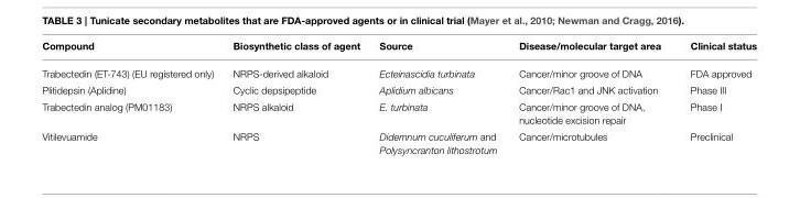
<table><thead><tr><td>Compound</td><td>Biosynthetic class of agent</td><td>Source</td><td>Disease/molecular target area</td><td>Clinical status</td></tr></thead><tbody><tr><td>Trabectedin (ET-743) (EU registered only)</td><td>NRPS-derived alkaloid</td><td>Ecteinascidia turbinata</td><td>Cancer/minor groove of DNA</td><td>FDA approved</td></tr><tr><td>Plitidepsin (Aplidine)</td><td>Cyclic depsipeptide</td><td>Aplidium albicans</td><td>Cancer/Rac1 and JNK activation</td><td>Phase III</td></tr><tr><td>Trabectedin analog (PM01183)</td><td>NRPS alkaloid</td><td>E. turbinata</td><td>Cancer/minor groove of DNA, nucleotide excision repair</td><td>Phase I</td></tr><tr><td>Vitilevuamide</td><td>NRPS</td><td>Didemnum cuculiferum and Polysyncranton lithostrotum</td><td>Cancer/microtubules</td><td>Preclinical</td></tr></tbody></table>